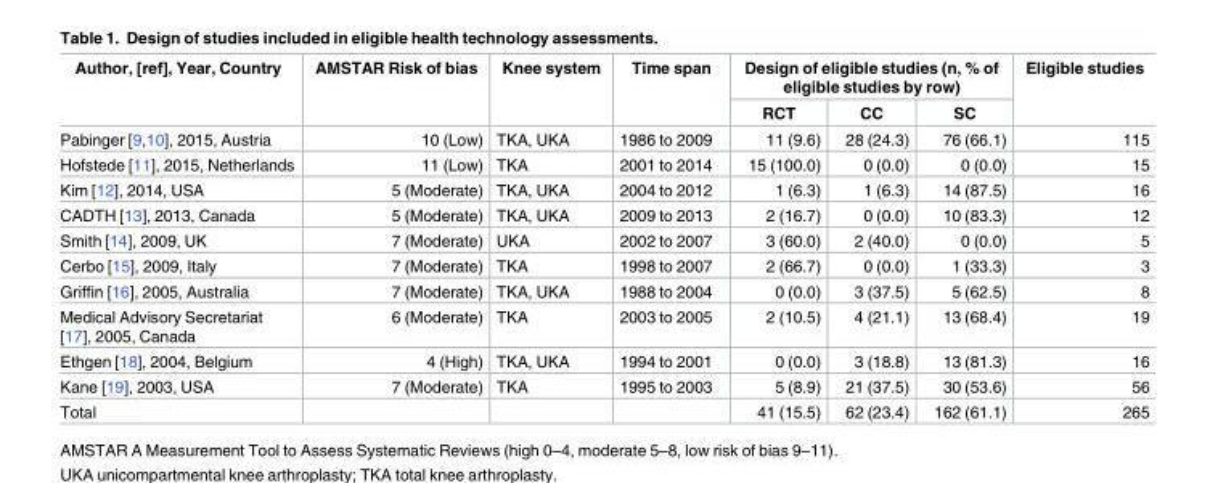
<table><thead><tr><td rowspan="2">Author, [ref], Year, Country</td><td rowspan="2">AMSTAR Risk of bias</td><td rowspan="2">Knee system</td><td rowspan="2">Time span</td><td colspan="3">Design of eligible studies (n, % of eligible studies by row)</td><td rowspan="2">Eligible studies</td></tr><tr><td>RCT</td><td>CC</td><td>SC</td></tr></thead><tbody><tr><td>Pabinger [9,10], 2015, Austria</td><td>10 (Low)</td><td>TKA, UKA</td><td>1986 to 2009</td><td>11 (9.6)</td><td>28 (24.3)</td><td>76 (66.1)</td><td>115</td></tr><tr><td>Hofstede [11], 2015, Netherlands</td><td>11 (Low)</td><td>TKA</td><td>2001 to 2014</td><td>15 (100.0)</td><td>0 (0.0)</td><td>0 (0.0)</td><td>15</td></tr><tr><td>Kim [12], 2014, USA</td><td>5 (Moderate)</td><td>TKA, UKA</td><td>2004 to 2012</td><td>1 (6.3)</td><td>1 (6.3)</td><td>14 (87.5)</td><td>16</td></tr><tr><td>CADTH [13], 2013, Canada</td><td>5 (Moderate)</td><td>TKA, UKA</td><td>2009 to 2013</td><td>2 (16.7)</td><td>0 (0.0)</td><td>10 (83.3)</td><td>12</td></tr><tr><td>Smith [14], 2009, UK</td><td>7 (Moderate)</td><td>UKA</td><td>2002 to 2007</td><td>3 (60.0)</td><td>2 (40.0)</td><td>0 (0.0)</td><td>5</td></tr><tr><td>Cerbo [15], 2009, Italy</td><td>7 (Moderate)</td><td>TKA</td><td>1998 to 2007</td><td>2 (66.7)</td><td>0 (0.0)</td><td>1 (33.3)</td><td>3</td></tr><tr><td>Griffin [16], 2005, Australia</td><td>7 (Moderate)</td><td>TKA, UKA</td><td>1988 to 2004</td><td>0 (0.0)</td><td>3 (37.5)</td><td>5 (62.5)</td><td>8</td></tr><tr><td>Medical Advisory Secretariat [17], 2005, Canada</td><td>6 (Moderate)</td><td>TKA</td><td>2003 to 2005</td><td>2 (10.5)</td><td>4 (21.1)</td><td>13 (68.4)</td><td>19</td></tr><tr><td>Ethgen [18], 2004, Belgium</td><td>4 (High)</td><td>TKA, UKA</td><td>1994 to 2001</td><td>0 (0.0)</td><td>3 (18.8)</td><td>13 (81.3)</td><td>16</td></tr><tr><td>Kane [19], 2003, USA</td><td>7 (Moderate)</td><td>TKA</td><td>1995 to 2003</td><td>5 (8.9)</td><td>21 (37.5)</td><td>30 (53.6)</td><td>56</td></tr><tr><td>Total</td><td></td><td></td><td></td><td>41 (15.5)</td><td>62 (23.4)</td><td>162 (61.1)</td><td>265</td></tr></tbody></table>